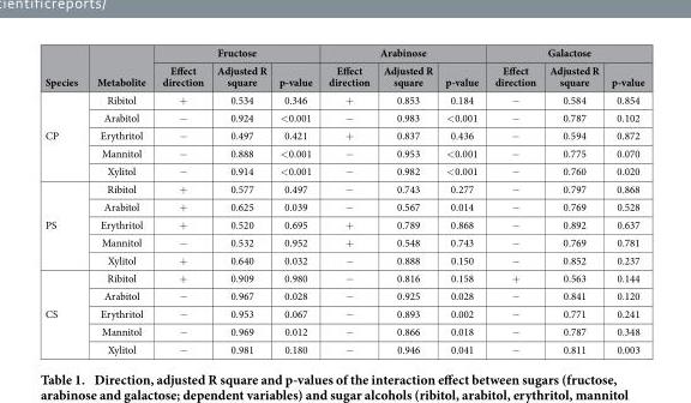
<table><thead><tr><td rowspan="2">Species</td><td rowspan="2">Metabolite</td><td colspan="3">Fructose</td><td colspan="3">Arabinose</td><td colspan="3">Galactose</td></tr><tr><td>Effect direction</td><td>Adjusted R square</td><td>p-value</td><td>Effect direction</td><td>Adjusted R square</td><td>p-value</td><td>Effect direction</td><td>Adjusted R square</td><td>p-value</td></tr></thead><tbody><tr><td rowspan="5">CP</td><td>Ribitol</td><td>+</td><td>0.534</td><td>0.346</td><td>+</td><td>0.853</td><td>0.184</td><td>−</td><td>0.584</td><td>0.854</td></tr><tr><td>Arabitol</td><td>−</td><td>0.924</td><td>&lt; 0.001</td><td>−</td><td>0.983</td><td>&lt; 0.001</td><td>−</td><td>0.787</td><td>0.102</td></tr><tr><td>Erythritol</td><td>−</td><td>0.497</td><td>0.421</td><td>+</td><td>0.837</td><td>0.436</td><td>−</td><td>0.594</td><td>0.872</td></tr><tr><td>Mannitol</td><td>−</td><td>0.888</td><td>&lt; 0.001</td><td>−</td><td>0.953</td><td>&lt; 0.001</td><td>−</td><td>0.775</td><td>0.070</td></tr><tr><td>Xylitol</td><td>−</td><td>0.914</td><td>&lt; 0.001</td><td>−</td><td>0.982</td><td>&lt; 0.001</td><td>−</td><td>0.760</td><td>0.020</td></tr><tr><td rowspan="5">PS</td><td>Ribitol</td><td>+</td><td>0.577</td><td>0.497</td><td>−</td><td>0.743</td><td>0.277</td><td>−</td><td>0.797</td><td>0.868</td></tr><tr><td>Arabitol</td><td>+</td><td>0.625</td><td>0.039</td><td>−</td><td>0.567</td><td>0.014</td><td>−</td><td>0.769</td><td>0.528</td></tr><tr><td>Erythritol</td><td>+</td><td>0.520</td><td>0.695</td><td>+</td><td>0.789</td><td>0.868</td><td>−</td><td>0.892</td><td>0.637</td></tr><tr><td>Mannitol</td><td>−</td><td>0.532</td><td>0.952</td><td>+</td><td>0.548</td><td>0.743</td><td>−</td><td>0.769</td><td>0.781</td></tr><tr><td>Xylitol</td><td>+</td><td>0.640</td><td>0.032</td><td>−</td><td>0.888</td><td>0.150</td><td>−</td><td>0.852</td><td>0.237</td></tr><tr><td rowspan="5">CS</td><td>Ribitol</td><td>+</td><td>0.909</td><td>0.980</td><td>−</td><td>0.816</td><td>0.158</td><td>+</td><td>0.563</td><td>0.144</td></tr><tr><td>Arabitol</td><td>−</td><td>0.967</td><td>0.028</td><td>−</td><td>0.925</td><td>0.028</td><td>−</td><td>0.841</td><td>0.120</td></tr><tr><td>Erythritol</td><td>−</td><td>0.953</td><td>0.067</td><td>−</td><td>0.893</td><td>0.002</td><td>−</td><td>0.771</td><td>0.241</td></tr><tr><td>Mannitol</td><td>−</td><td>0.969</td><td>0.012</td><td>−</td><td>0.866</td><td>0.018</td><td>−</td><td>0.787</td><td>0.348</td></tr><tr><td>Xylitol</td><td>−</td><td>0.981</td><td>0.180</td><td>−</td><td>0.946</td><td>0.041</td><td>−</td><td>0.811</td><td>0.003</td></tr></tbody></table>